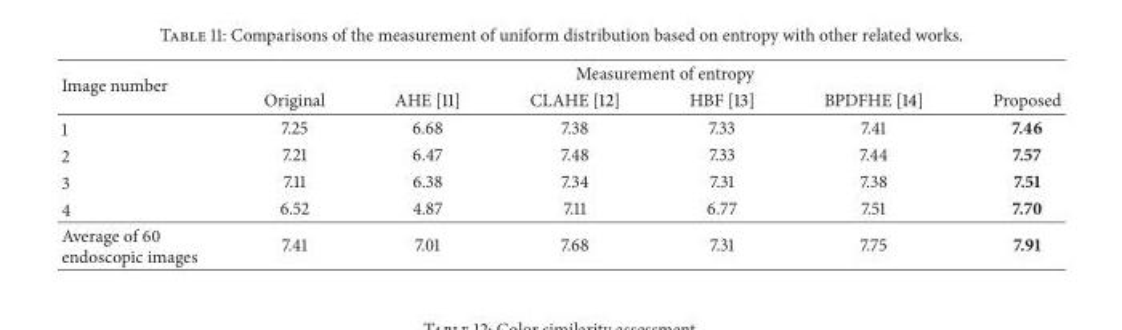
<table><thead><tr><td rowspan="2">Image number</td><td colspan="6">Measurement of entropy</td></tr><tr><td>Original</td><td>AHE [11]</td><td>CLAHE [12]</td><td>HBF [13]</td><td>BPDFHE [14]</td><td>Proposed</td></tr></thead><tbody><tr><td>1</td><td>7.25</td><td>6.68</td><td>7.38</td><td>7.33</td><td>7.41</td><td>7.46</td></tr><tr><td>2</td><td>7.21</td><td>6.47</td><td>7.48</td><td>7.33</td><td>7.44</td><td>7.57</td></tr><tr><td>3</td><td>7.11</td><td>6.38</td><td>7.34</td><td>7.31</td><td>7.38</td><td>7.51</td></tr><tr><td>4</td><td>6.52</td><td>4.87</td><td>7.11</td><td>6.77</td><td>7.51</td><td>7.70</td></tr><tr><td>Average of 60 endoscopic images</td><td>7.41</td><td>7.01</td><td>7.68</td><td>7.31</td><td>7.75</td><td>7.91</td></tr></tbody></table>